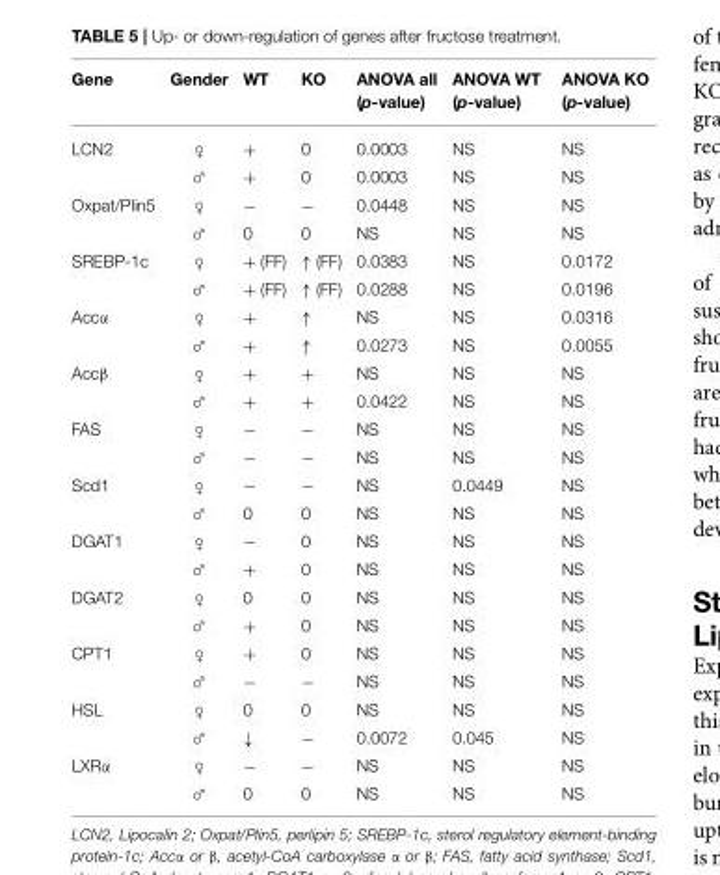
<table><thead><tr><td>Gene</td><td>Gender</td><td>WT</td><td>KO</td><td>ANOVA all (p-value)</td><td>ANOVA WT (p-value)</td><td>ANOVA KO (p-value)</td></tr></thead><tbody><tr><td rowspan="2">LCN2</td><td>♀</td><td>+</td><td>0</td><td>0.0003</td><td>NS</td><td>NS</td></tr><tr><td>♂</td><td>+</td><td>0</td><td>0.0003</td><td>NS</td><td>NS</td></tr><tr><td rowspan="2">Oxpat/Plin5</td><td>♀</td><td>−</td><td>−</td><td>0.0448</td><td>NS</td><td>NS</td></tr><tr><td>♂</td><td>0</td><td>0</td><td>NS</td><td>NS</td><td>NS</td></tr><tr><td rowspan="2">SREBP-1c</td><td>♀</td><td>+ (FF)</td><td>↑ (FF)</td><td>0.0383</td><td>NS</td><td>0.0172</td></tr><tr><td>♂</td><td>+ (FF)</td><td>↑ (FF)</td><td>0.0288</td><td>NS</td><td>0.0196</td></tr><tr><td rowspan="2">Accα</td><td>♀</td><td>+</td><td>↑</td><td>NS</td><td>NS</td><td>0.0316</td></tr><tr><td>♂</td><td>+</td><td>↑</td><td>0.0273</td><td>NS</td><td>0.0055</td></tr><tr><td rowspan="2">Accβ</td><td>♀</td><td>+</td><td>+</td><td>NS</td><td>NS</td><td>NS</td></tr><tr><td>♂</td><td>+</td><td>+</td><td>0.0422</td><td>NS</td><td>NS</td></tr><tr><td rowspan="2">FAS</td><td>♀</td><td>−</td><td>−</td><td>NS</td><td>NS</td><td>NS</td></tr><tr><td>♂</td><td>−</td><td>−</td><td>NS</td><td>NS</td><td>NS</td></tr><tr><td rowspan="2">Scd1</td><td>♀</td><td>−</td><td>−</td><td>NS</td><td>0.0449</td><td>NS</td></tr><tr><td>♂</td><td>0</td><td>0</td><td>NS</td><td>NS</td><td>NS</td></tr><tr><td rowspan="2">DGAT1</td><td>♀</td><td>−</td><td>0</td><td>NS</td><td>NS</td><td>NS</td></tr><tr><td>♂</td><td>+</td><td>0</td><td>NS</td><td>NS</td><td>NS</td></tr><tr><td rowspan="2">DGAT2</td><td>♀</td><td>0</td><td>0</td><td>NS</td><td>NS</td><td>NS</td></tr><tr><td>♂</td><td>+</td><td>0</td><td>NS</td><td>NS</td><td>NS</td></tr><tr><td rowspan="2">CPT1</td><td>♀</td><td>+</td><td>0</td><td>NS</td><td>NS</td><td>NS</td></tr><tr><td>♂</td><td>−</td><td>−</td><td>NS</td><td>NS</td><td>NS</td></tr><tr><td rowspan="2">HSL</td><td>♀</td><td>0</td><td>0</td><td>NS</td><td>NS</td><td>NS</td></tr><tr><td>♂</td><td>↓</td><td>−</td><td>0.0072</td><td>0.045</td><td>NS</td></tr><tr><td rowspan="2">LXRα</td><td>♀</td><td>−</td><td>−</td><td>NS</td><td>NS</td><td>NS</td></tr><tr><td>♂</td><td>0</td><td>0</td><td>NS</td><td>NS</td><td>NS</td></tr></tbody></table>